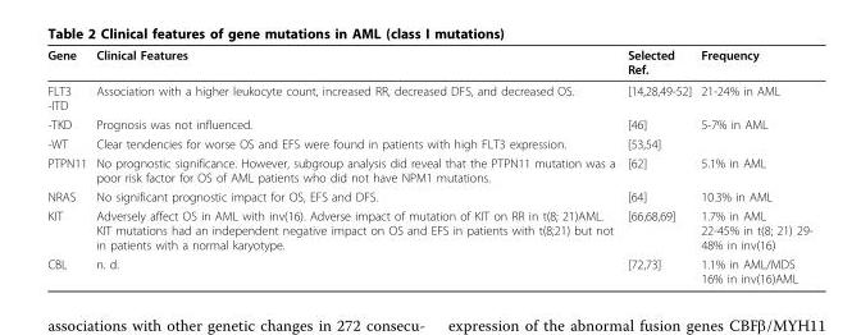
<table><thead><tr><td>Gene</td><td>Clinical Features</td><td>Selected Ref.</td><td>Frequency</td></tr></thead><tbody><tr><td>FLT3 -ITD</td><td>Association with a higher leukocyte count, increased RR, decreased DFS, and decreased OS.</td><td>[14,28,49-52]</td><td>21-24% in AML</td></tr><tr><td>-TKD</td><td>Prognosis was not influenced.</td><td>[46]</td><td>5-7% in AML</td></tr><tr><td>-WT</td><td>Clear tendencies for worse OS and EFS were found in patients with high FLT3 expression.</td><td>[53,54]</td><td></td></tr><tr><td>PTPN11</td><td>No prognostic significance. However, subgroup analysis did reveal that the PTPN11 mutation was a poor risk factor for OS of AML patients who did not have NPM1 mutations.</td><td>[62]</td><td>5.1% in AML</td></tr><tr><td>NRAS</td><td>No significant prognostic impact for OS, EFS and DFS.</td><td>[64]</td><td>10.3% in AML</td></tr><tr><td>KIT</td><td>Adversely affect OS in AML with inv(16). Adverse impact of mutation of KIT on RR in t(8; 21)AML. KIT mutations had an independent negative impact on OS and EFS in patients with t(8;21) but not in patients with a normal karyotype.</td><td>[66,68,69]</td><td>1.7% in AML 22-45% in t(8; 21) 29- 48% in inv(16)</td></tr><tr><td>CBL</td><td>n. d.</td><td>[72,73]</td><td>1.1% in AML/MDS 16% in inv(16)AML</td></tr></tbody></table>